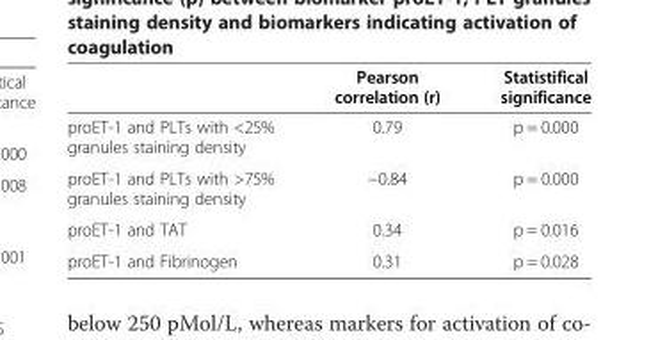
<table><thead><tr><td></td><td>Pearson correlation (r)</td><td>Statistifical significance</td></tr></thead><tbody><tr><td>proET-1 and PLTs with &lt;25% granules staining density</td><td>0.79</td><td>p = 0.000</td></tr><tr><td>proET-1 and PLTs with &gt;75% granules staining density</td><td>−0.84</td><td>p = 0.000</td></tr><tr><td>proET-1 and TAT</td><td>0.34</td><td>p = 0.016</td></tr><tr><td>proET-1 and Fibrinogen</td><td>0.31</td><td>p = 0.028</td></tr></tbody></table>